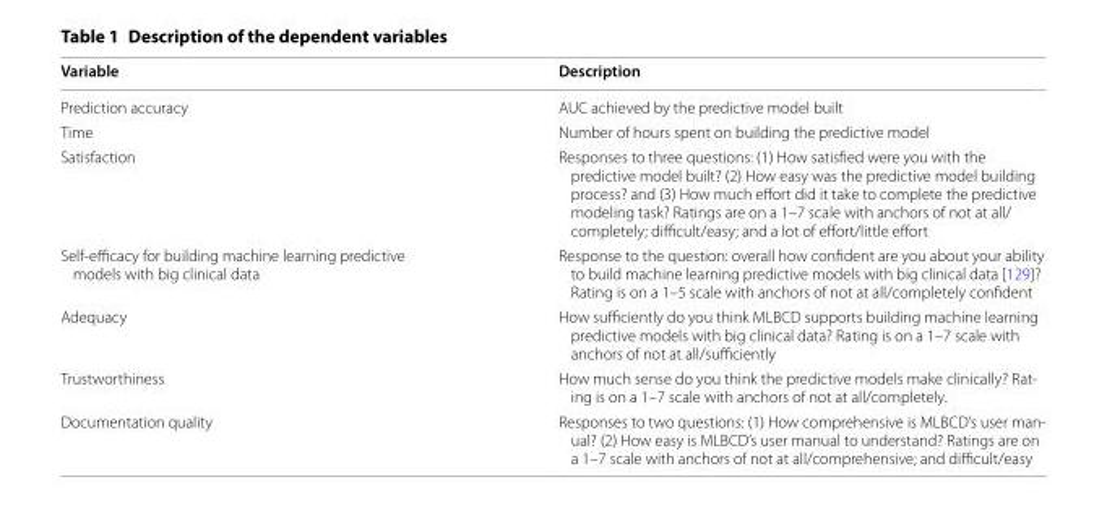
<table><thead><tr><td>Variable</td><td>Description</td></tr></thead><tbody><tr><td>Prediction accuracy</td><td>AUC achieved by the predictive model built</td></tr><tr><td>Time</td><td>Number of hours spent on building the predictive model</td></tr><tr><td>Satisfaction</td><td>Responses to three questions: (1) How satisfied were you with the predictive model built? (2) How easy was the predictive model building process? and (3) How much effort did it take to complete the predictive modeling task? Ratings are on a 1–7 scale with anchors of not at all/ completely; difficult/easy; and a lot of effort/little effort</td></tr><tr><td>Self-efficacy for building machine learning predictive models with big clinical data</td><td>Response to the question: overall how confident are you about your ability to build machine learning predictive models with big clinical data [129]? Rating is on a 1–5 scale with anchors of not at all/completely confident</td></tr><tr><td>Adequacy</td><td>How sufficiently do you think MLBCD supports building machine learning predictive models with big clinical data? Rating is on a 1–7 scale with anchors of not at all/sufficiently</td></tr><tr><td>Trustworthiness</td><td>How much sense do you think the predictive models make clinically? Rat- ing is on a 1–7 scale with anchors of not at all/completely.</td></tr><tr><td>Documentation quality</td><td>Responses to two questions: (1) How comprehensive is MLBCD’s user man- ual? (2) How easy is MLBCD’s user manual to understand? Ratings are on a 1–7 scale with anchors of not at all/comprehensive; and difficult/easy</td></tr></tbody></table>